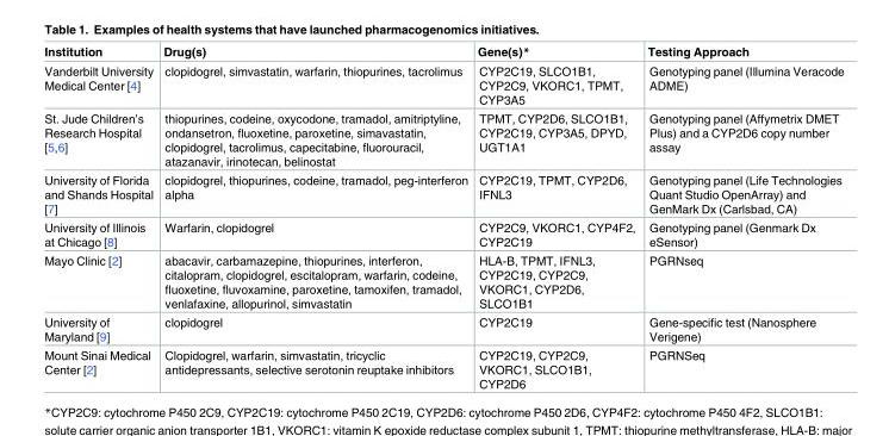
<table><thead><tr><td>Institution</td><td>Drug(s)</td><td>Gene(s)*</td><td>Testing Approach</td></tr></thead><tbody><tr><td>Vanderbilt University Medical Center [4]</td><td>clopidogrel, simvastatin, warfarin, thiopurines, tacrolimus</td><td>CYP2C19, SLCO1B1, CYP2C9, VKORC1, TPMT, CYP3A5</td><td>Genotyping panel (Illumina Veracode ADME)</td></tr><tr><td>St. Jude Children’s Research Hospital [5,6]</td><td>thiopurines, codeine, oxycodone, tramadol, amitriptyline, ondansetron, fluoxetine, paroxetine, simavastatin, clopidogrel, tacrolimus, capecitabine, fluorouracil, atazanavir, irinotecan, belinostat</td><td>TPMT, CYP2D6, SLCO1B1, CYP2C19, CYP3A5, DPYD, UGT1A1</td><td>Genotyping panel (Affymetrix DMET Plus) and a CYP2D6 copy number assay</td></tr><tr><td>University of Florida and Shands Hospital [7]</td><td>clopidogrel, thiopurines, codeine, tramadol, peg-interferon alpha</td><td>CYP2C19, TPMT, CYP2D6, IFNL3</td><td>Genotyping panel (Life Technologies Quant Studio OpenArray) and GenMark Dx (Carlsbad, CA)</td></tr><tr><td>University of Illinois at Chicago [8]</td><td>Warfarin, clopidogrel</td><td>CYP2C9, VKORC1, CYP4F2, CYP2C19</td><td>Genotyping panel (Genmark Dx eSensor)</td></tr><tr><td>Mayo Clinic [2]</td><td>abacavir, carbamazepine, thiopurines, interferon, citalopram, clopidogrel, escitalopram, warfarin, codeine, fluoxetine, fluvoxamine, paroxetine, tamoxifen, tramadol, venlafaxine, allopurinol, simvastatin</td><td>HLA-B, TPMT, IFNL3, CYP2C19, CYP2C9, VKORC1, CYP2D6, SLCO1B1</td><td>PGRNseq</td></tr><tr><td>University of Maryland [9]</td><td>clopidogrel</td><td>CYP2C19</td><td>Gene-specific test (Nanosphere Verigene)</td></tr><tr><td>Mount Sinai Medical Center [2]</td><td>Clopidogrel, warfarin, simvastatin, tricyclic antidepressants, selective serotonin reuptake inhibitors</td><td>CYP2C19, CYP2C9, VKORC1, SLCO1B1, CYP2D6</td><td>PGRNSeq</td></tr></tbody></table>